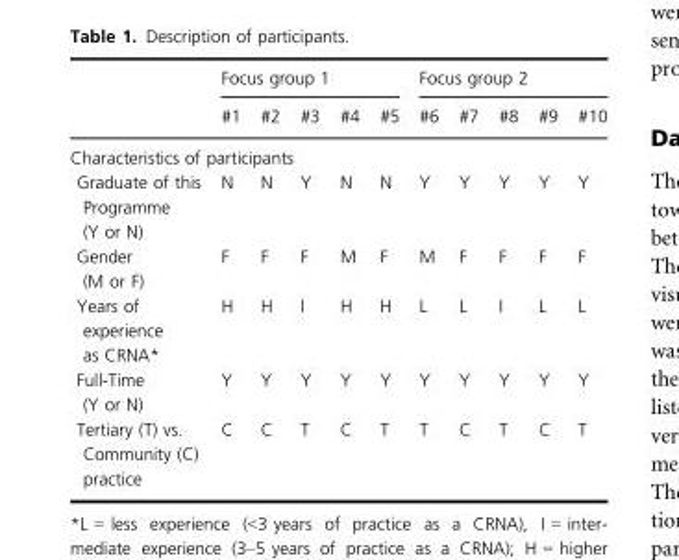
<table><thead><tr><td rowspan="2"></td><td colspan="5">Focus group 1</td><td colspan="5">Focus group 2</td></tr><tr><td>#1</td><td>#2</td><td>#3</td><td>#4</td><td>#5</td><td>#6</td><td>#7</td><td>#8</td><td>#9</td><td>#10</td></tr></thead><tbody><tr><td colspan="11">Characteristics of participants</td></tr><tr><td>Graduate of this Programme (Y or N)</td><td>N</td><td>N</td><td>Y</td><td>N</td><td>N</td><td>Y</td><td>Y</td><td>Y</td><td>Y</td><td>Y</td></tr><tr><td>Gender (M or F)</td><td>F</td><td>F</td><td>F</td><td>M</td><td>F</td><td>M</td><td>F</td><td>F</td><td>F</td><td>F</td></tr><tr><td>Years of experience as CRNA*</td><td>H</td><td>H</td><td>I</td><td>H</td><td>H</td><td>L</td><td>L</td><td>I</td><td>L</td><td>L</td></tr><tr><td>Full-Time (Y or N)</td><td>Y</td><td>Y</td><td>Y</td><td>Y</td><td>Y</td><td>Y</td><td>Y</td><td>Y</td><td>Y</td><td>Y</td></tr><tr><td>Tertiary (T) vs. Community (C) practice</td><td>C</td><td>C</td><td>T</td><td>C</td><td>T</td><td>T</td><td>C</td><td>T</td><td>C</td><td>T</td></tr></tbody></table>